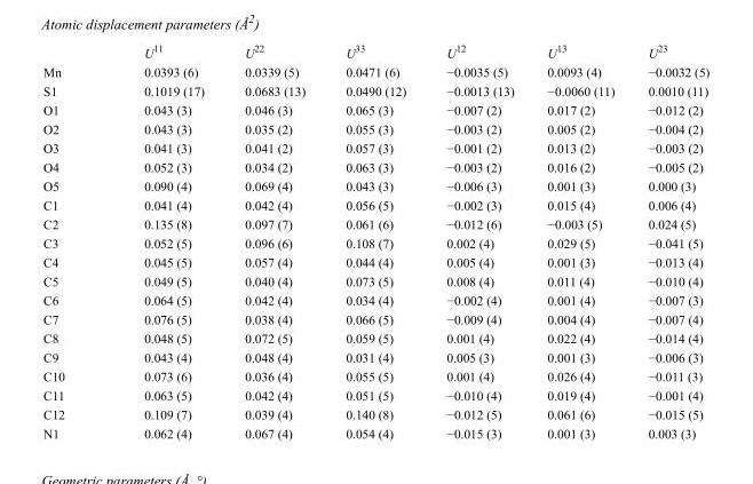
<table><thead><tr><td></td><td>U<sup>11</sup></td><td>U<sup>22</sup></td><td>U<sup>33</sup></td><td>U<sup>12</sup></td><td>U<sup>13</sup></td><td>U<sup>23</sup></td></tr></thead><tbody><tr><td>Mn</td><td>0.0393 (6)</td><td>0.0339 (5)</td><td>0.0471 (6)</td><td>−0.0035 (5)</td><td>0.0093 (4)</td><td>−0.0032 (5)</td></tr><tr><td>S1</td><td>0.1019 (17)</td><td>0.0683 (13)</td><td>0.0490 (12)</td><td>−0.0013 (13)</td><td>−0.0060 (11)</td><td>0.0010 (11)</td></tr><tr><td>O1</td><td>0.043 (3)</td><td>0.046 (3)</td><td>0.065 (3)</td><td>−0.007 (2)</td><td>0.017 (2)</td><td>−0.012 (2)</td></tr><tr><td>O2</td><td>0.043 (3)</td><td>0.035 (2)</td><td>0.055 (3)</td><td>−0.003 (2)</td><td>0.005 (2)</td><td>−0.004 (2)</td></tr><tr><td>O3</td><td>0.041 (3)</td><td>0.041 (2)</td><td>0.057 (3)</td><td>−0.001 (2)</td><td>0.013 (2)</td><td>−0.003 (2)</td></tr><tr><td>O4</td><td>0.052 (3)</td><td>0.034 (2)</td><td>0.063 (3)</td><td>−0.003 (2)</td><td>0.016 (2)</td><td>−0.005 (2)</td></tr><tr><td>O5</td><td>0.090 (4)</td><td>0.069 (4)</td><td>0.043 (3)</td><td>−0.006 (3)</td><td>0.001 (3)</td><td>0.000 (3)</td></tr><tr><td>C1</td><td>0.041 (4)</td><td>0.042 (4)</td><td>0.056 (5)</td><td>−0.002 (3)</td><td>0.015 (4)</td><td>0.006 (4)</td></tr><tr><td>C2</td><td>0.135 (8)</td><td>0.097 (7)</td><td>0.061 (6)</td><td>−0.012 (6)</td><td>−0.003 (5)</td><td>0.024 (5)</td></tr><tr><td>C3</td><td>0.052 (5)</td><td>0.096 (6)</td><td>0.108 (7)</td><td>0.002 (4)</td><td>0.029 (5)</td><td>−0.041 (5)</td></tr><tr><td>C4</td><td>0.045 (5)</td><td>0.057 (4)</td><td>0.044 (4)</td><td>0.005 (4)</td><td>0.001 (3)</td><td>−0.013 (4)</td></tr><tr><td>C5</td><td>0.049 (5)</td><td>0.040 (4)</td><td>0.073 (5)</td><td>0.008 (4)</td><td>0.011 (4)</td><td>−0.010 (4)</td></tr><tr><td>C6</td><td>0.064 (5)</td><td>0.042 (4)</td><td>0.034 (4)</td><td>−0.002 (4)</td><td>0.001 (4)</td><td>−0.007 (3)</td></tr><tr><td>C7</td><td>0.076 (5)</td><td>0.038 (4)</td><td>0.066 (5)</td><td>−0.009 (4)</td><td>0.004 (4)</td><td>−0.007 (4)</td></tr><tr><td>C8</td><td>0.048 (5)</td><td>0.072 (5)</td><td>0.059 (5)</td><td>0.001 (4)</td><td>0.022 (4)</td><td>−0.014 (4)</td></tr><tr><td>C9</td><td>0.043 (4)</td><td>0.048 (4)</td><td>0.031 (4)</td><td>0.005 (3)</td><td>0.001 (3)</td><td>−0.006 (3)</td></tr><tr><td>C10</td><td>0.073 (6)</td><td>0.036 (4)</td><td>0.055 (5)</td><td>0.001 (4)</td><td>0.026 (4)</td><td>−0.011 (3)</td></tr><tr><td>C11</td><td>0.063 (5)</td><td>0.042 (4)</td><td>0.051 (5)</td><td>−0.010 (4)</td><td>0.019 (4)</td><td>−0.001 (4)</td></tr><tr><td>C12</td><td>0.109 (7)</td><td>0.039 (4)</td><td>0.140 (8)</td><td>−0.012 (5)</td><td>0.061 (6)</td><td>−0.015 (5)</td></tr><tr><td>N1</td><td>0.062 (4)</td><td>0.067 (4)</td><td>0.054 (4)</td><td>−0.015 (3)</td><td>0.001 (3)</td><td>0.003 (3)</td></tr></tbody></table>